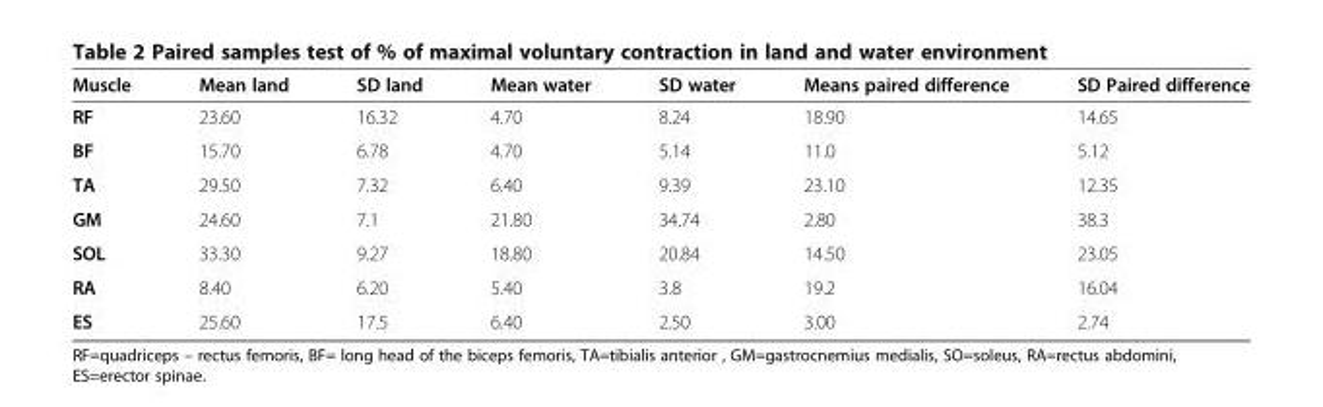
<table><thead><tr><td>Muscle</td><td>Mean land</td><td>SD land</td><td>Mean water</td><td>SD water</td><td>Means paired difference</td><td>SD Paired difference</td></tr></thead><tbody><tr><td>RF</td><td>23.60</td><td>16.32</td><td>4.70</td><td>8.24</td><td>18.90</td><td>14.65</td></tr><tr><td>BF</td><td>15.70</td><td>6.78</td><td>4.70</td><td>5.14</td><td>11.0</td><td>5.12</td></tr><tr><td>TA</td><td>29.50</td><td>7.32</td><td>6.40</td><td>9.39</td><td>23.10</td><td>12.35</td></tr><tr><td>GM</td><td>24.60</td><td>7.1</td><td>21.80</td><td>34.74</td><td>2.80</td><td>38.3</td></tr><tr><td>SOL</td><td>33.30</td><td>9.27</td><td>18.80</td><td>20.84</td><td>14.50</td><td>23.05</td></tr><tr><td>RA</td><td>8.40</td><td>6.20</td><td>5.40</td><td>3.8</td><td>19.2</td><td>16.04</td></tr><tr><td>ES</td><td>25.60</td><td>17.5</td><td>6.40</td><td>2.50</td><td>3.00</td><td>2.74</td></tr></tbody></table>